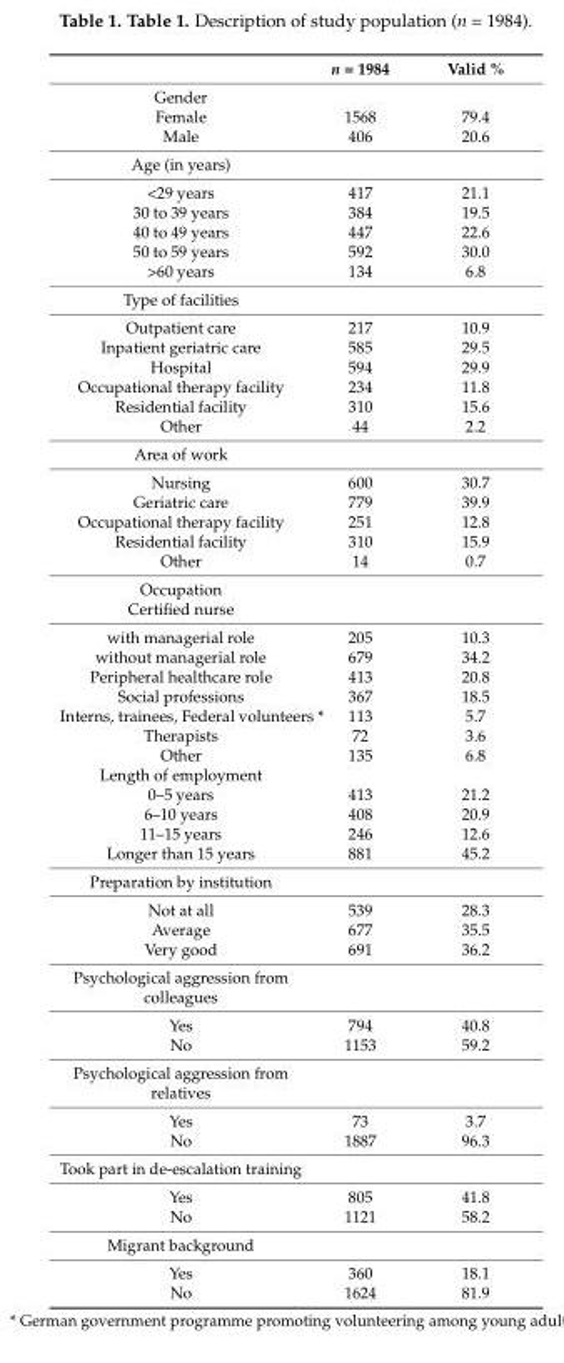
<table><thead><tr><td></td><td>n = 1984</td><td>Valid %</td></tr></thead><tbody><tr><td colspan="3">Gender</td></tr><tr><td>Female</td><td>1568</td><td>79.4</td></tr><tr><td>Male</td><td>406</td><td>20.6</td></tr><tr><td colspan="3">Age (in years)</td></tr><tr><td>&lt;29 years</td><td>417</td><td>21.1</td></tr><tr><td>30 to 39 years</td><td>384</td><td>19.5</td></tr><tr><td>40 to 49 years</td><td>447</td><td>22.6</td></tr><tr><td>50 to 59 years</td><td>592</td><td>30.0</td></tr><tr><td>&gt;60 years</td><td>134</td><td>6.8</td></tr><tr><td colspan="3">Type of facilities</td></tr><tr><td>Outpatient care</td><td>217</td><td>10.9</td></tr><tr><td>Inpatient geriatric care</td><td>585</td><td>29.5</td></tr><tr><td>Hospital</td><td>594</td><td>29.9</td></tr><tr><td>Occupational therapy facility</td><td>234</td><td>11.8</td></tr><tr><td>Residential facility</td><td>310</td><td>15.6</td></tr><tr><td>Other</td><td>44</td><td>2.2</td></tr><tr><td colspan="3">Area of work</td></tr><tr><td>Nursing</td><td>600</td><td>30.7</td></tr><tr><td>Geriatric care</td><td>779</td><td>39.9</td></tr><tr><td>Occupational therapy facility</td><td>251</td><td>12.8</td></tr><tr><td>Residential facility</td><td>310</td><td>15.9</td></tr><tr><td>Other</td><td>14</td><td>0.7</td></tr><tr><td colspan="3">Occupation</td></tr><tr><td colspan="3">Certified nurse</td></tr><tr><td>with managerial role</td><td>205</td><td>10.3</td></tr><tr><td>without managerial role</td><td>679</td><td>34.2</td></tr><tr><td>Peripheral healthcare role</td><td>413</td><td>20.8</td></tr><tr><td>Social professions</td><td>367</td><td>18.5</td></tr><tr><td>Interns, trainees, Federal volunteers *</td><td>113</td><td>5.7</td></tr><tr><td>Therapists</td><td>72</td><td>3.6</td></tr><tr><td>Other</td><td>135</td><td>6.8</td></tr><tr><td colspan="3">Length of employment</td></tr><tr><td>0–5 years</td><td>413</td><td>21.2</td></tr><tr><td>6–10 years</td><td>408</td><td>20.9</td></tr><tr><td>11–15 years</td><td>246</td><td>12.6</td></tr><tr><td>Longer than 15 years</td><td>881</td><td>45.2</td></tr><tr><td colspan="3">Preparation by institution</td></tr><tr><td>Not at all</td><td>539</td><td>28.3</td></tr><tr><td>Average</td><td>677</td><td>35.5</td></tr><tr><td>Very good</td><td>691</td><td>36.2</td></tr><tr><td colspan="3">Psychological aggression from colleagues</td></tr><tr><td>Yes</td><td>794</td><td>40.8</td></tr><tr><td>No</td><td>1153</td><td>59.2</td></tr><tr><td colspan="3">Psychological aggression from relatives</td></tr><tr><td>Yes</td><td>73</td><td>3.7</td></tr><tr><td>No</td><td>1887</td><td>96.3</td></tr><tr><td colspan="3">Took part in de-escalation training</td></tr><tr><td>Yes</td><td>805</td><td>41.8</td></tr><tr><td>No</td><td>1121</td><td>58.2</td></tr><tr><td colspan="3">Migrant background</td></tr><tr><td>Yes</td><td>360</td><td>18.1</td></tr><tr><td>No</td><td>1624</td><td>81.9</td></tr></tbody></table>